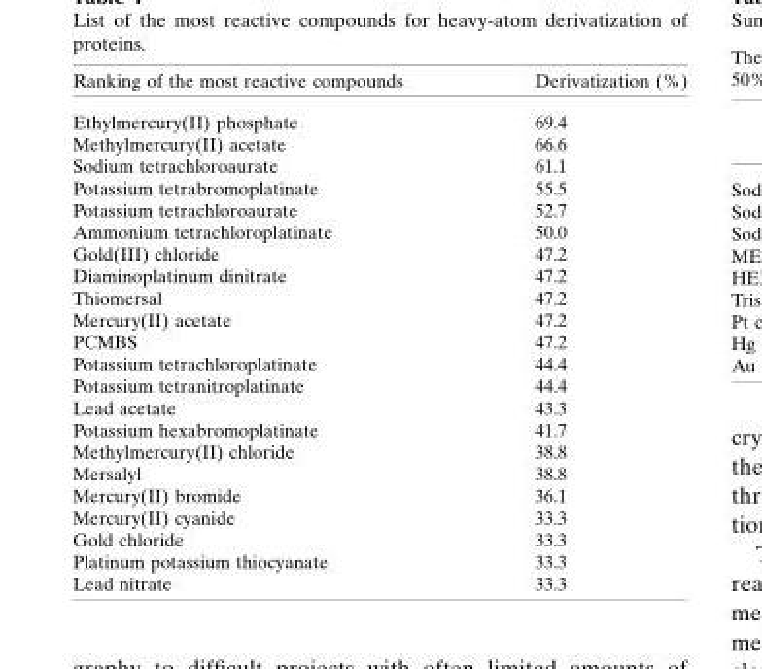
<table><thead><tr><td>Ranking of the most reactive compounds</td><td>Derivatization (%)</td></tr></thead><tbody><tr><td>Ethylmercury(II) phosphate</td><td>69.4</td></tr><tr><td>Methylmercury(II) acetate</td><td>66.6</td></tr><tr><td>Sodium tetrachloroaurate</td><td>61.1</td></tr><tr><td>Potassium tetrabromoplatinate</td><td>55.5</td></tr><tr><td>Potassium tetrachloroaurate</td><td>52.7</td></tr><tr><td>Ammonium tetrachloroplatinate</td><td>50.0</td></tr><tr><td>Gold(III) chloride</td><td>47.2</td></tr><tr><td>Diaminoplatinum dinitrate</td><td>47.2</td></tr><tr><td>Thiomersal</td><td>47.2</td></tr><tr><td>Mercury(II) acetate</td><td>47.2</td></tr><tr><td>PCMBS</td><td>47.2</td></tr><tr><td>Potassium tetrachloroplatinate</td><td>44.4</td></tr><tr><td>Potassium tetranitroplatinate</td><td>44.4</td></tr><tr><td>Lead acetate</td><td>43.3</td></tr><tr><td>Potassium hexabromoplatinate</td><td>41.7</td></tr><tr><td>Methylmercury(II) chloride</td><td>38.8</td></tr><tr><td>Mersalyl</td><td>38.8</td></tr><tr><td>Mercury(II) bromide</td><td>36.1</td></tr><tr><td>Mercury(II) cyanide</td><td>33.3</td></tr><tr><td>Gold chloride</td><td>33.3</td></tr><tr><td>Platinum potassium thiocyanate</td><td>33.3</td></tr><tr><td>Lead nitrate</td><td>33.3</td></tr></tbody></table>